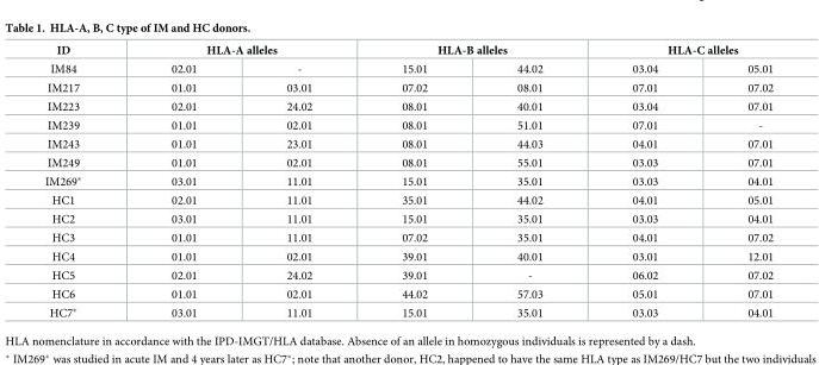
<table><thead><tr><td rowspan="2">ID IM84</td><td colspan="2">HLA-A alleles</td><td colspan="2">HLA-B alleles</td><td colspan="2">HLA-C alleles</td></tr><tr><td>02.01</td><td>-</td><td>15.01</td><td>44.02</td><td>03.04</td><td>05.01</td></tr></thead><tbody><tr><td>IM217</td><td>01.01</td><td>03.01</td><td>07.02</td><td>08.01</td><td>07.01</td><td>07.02</td></tr><tr><td>IM223</td><td>02.01</td><td>24.02</td><td>08.01</td><td>40.01</td><td>03.04</td><td>07.01</td></tr><tr><td>IM239</td><td>01.01</td><td>02.01</td><td>08.01</td><td>51.01</td><td>07.01</td><td>-</td></tr><tr><td>IM243</td><td>01.01</td><td>23.01</td><td>08.01</td><td>44.03</td><td>04.01</td><td>07.01</td></tr><tr><td>IM249</td><td>01.01</td><td>02.01</td><td>08.01</td><td>55.01</td><td>03.03</td><td>07.01</td></tr><tr><td>IM269*</td><td>03.01</td><td>11.01</td><td>15.01</td><td>35.01</td><td>03.03</td><td>04.01</td></tr><tr><td>HC1</td><td>02.01</td><td>11.01</td><td>35.01</td><td>44.02</td><td>04.01</td><td>05.01</td></tr><tr><td>HC2</td><td>03.01</td><td>11.01</td><td>15.01</td><td>35.01</td><td>03.03</td><td>04.01</td></tr><tr><td>HC3</td><td>01.01</td><td>11.01</td><td>07.02</td><td>35.01</td><td>04.01</td><td>07.02</td></tr><tr><td>HC4</td><td>01.01</td><td>02.01</td><td>39.01</td><td>40.01</td><td>03.01</td><td>12.01</td></tr><tr><td>HC5</td><td>02.01</td><td>24.02</td><td>39.01</td><td>-</td><td>06.02</td><td>07.02</td></tr><tr><td>HC6</td><td>01.01</td><td>02.01</td><td>44.02</td><td>57.03</td><td>05.01</td><td>07.01</td></tr><tr><td>HC7*</td><td>03.01</td><td>11.01</td><td>15.01</td><td>35.01</td><td>03.03</td><td>04.01</td></tr></tbody></table>